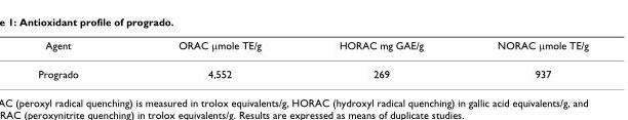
<table><thead><tr><td>Agent</td><td>ORAC μmole TE/g</td><td>HORAC mg GAE/g</td><td>NORAC μmole TE/g</td></tr></thead><tbody><tr><td>Progrado</td><td>4,552</td><td>269</td><td>937</td></tr></tbody></table>